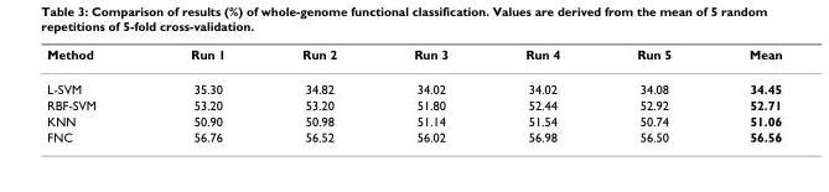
<table><thead><tr><td>Method</td><td>Run 1</td><td>Run 2</td><td>Run 3</td><td>Run 4</td><td>Run 5</td><td>Mean</td></tr></thead><tbody><tr><td>L-SVM</td><td>35.30</td><td>34.82</td><td>34.02</td><td>34.02</td><td>34.08</td><td>34.45</td></tr><tr><td>RBF-SVM</td><td>53.20</td><td>53.20</td><td>51.80</td><td>52.44</td><td>52.92</td><td>52.71</td></tr><tr><td>KNN</td><td>50.90</td><td>50.98</td><td>51.14</td><td>51.54</td><td>50.74</td><td>51.06</td></tr><tr><td>FNC</td><td>56.76</td><td>56.52</td><td>56.02</td><td>56.98</td><td>56.50</td><td>56.56</td></tr></tbody></table>